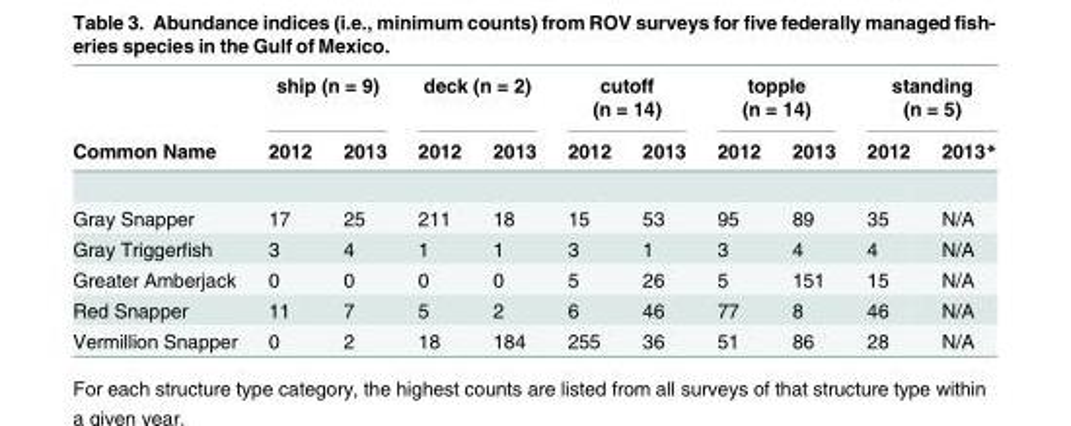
<table><thead><tr><td rowspan="2">Common Name</td><td colspan="2">ship (n = 9)</td><td colspan="2">deck (n = 2)</td><td colspan="2">cutoff (n = 14)</td><td colspan="2">topple (n = 14)</td><td colspan="2">standing (n = 5)</td></tr><tr><td>2012</td><td>2013</td><td>2012</td><td>2013</td><td>2012</td><td>2013</td><td>2012</td><td>2013</td><td>2012</td><td>2013*</td></tr></thead><tbody><tr><td>Gray Snapper</td><td>17</td><td>25</td><td>211</td><td>18</td><td>15</td><td>53</td><td>95</td><td>89</td><td>35</td><td>N/A</td></tr><tr><td>Gray Triggerfish</td><td>3</td><td>4</td><td>1</td><td>1</td><td>3</td><td>1</td><td>3</td><td>4</td><td>4</td><td>N/A</td></tr><tr><td>Greater Amberjack</td><td>0</td><td>0</td><td>0</td><td>0</td><td>5</td><td>26</td><td>5</td><td>151</td><td>15</td><td>N/A</td></tr><tr><td>Red Snapper</td><td>11</td><td>7</td><td>5</td><td>2</td><td>6</td><td>46</td><td>77</td><td>8</td><td>46</td><td>N/A</td></tr><tr><td>Vermillion Snapper</td><td>0</td><td>2</td><td>18</td><td>184</td><td>255</td><td>36</td><td>51</td><td>86</td><td>28</td><td>N/A</td></tr></tbody></table>